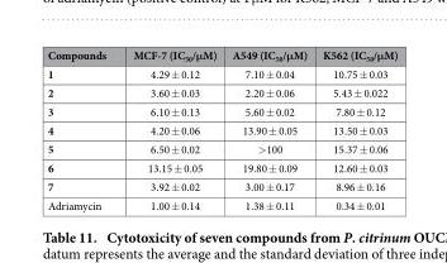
<table><thead><tr><td>Compounds</td><td>MCF-7 (IC<sub>50</sub>/μM)</td><td>A549 (IC<sub>50</sub>/μM)</td><td>K562 (IC<sub>50</sub>/μM)</td></tr></thead><tbody><tr><td>1</td><td>4.29 ± 0.12</td><td>7.10 ± 0.04</td><td>10.75 ± 0.03</td></tr><tr><td>2</td><td>3.60 ± 0.03</td><td>2.20 ± 0.06</td><td>5.43 ± 0.022</td></tr><tr><td>3</td><td>6.10 ± 0.13</td><td>5.60 ± 0.02</td><td>7.80 ± 0.12</td></tr><tr><td>4</td><td>4.20 ± 0.06</td><td>13.90 ± 0.05</td><td>13.50 ± 0.03</td></tr><tr><td>5</td><td>6.50 ± 0.02</td><td>&gt; 100</td><td>15.37 ± 0.06</td></tr><tr><td>6</td><td>13.15 ± 0.05</td><td>19.80 ± 0.09</td><td>12.60 ± 0.03</td></tr><tr><td>7</td><td>3.92 ± 0.02</td><td>3.00 ± 0.17</td><td>8.96 ± 0.16</td></tr><tr><td>Adriamycin</td><td>1.00 ± 0.14</td><td>1.38 ± 0.11</td><td>0.34 ± 0.01</td></tr></tbody></table>